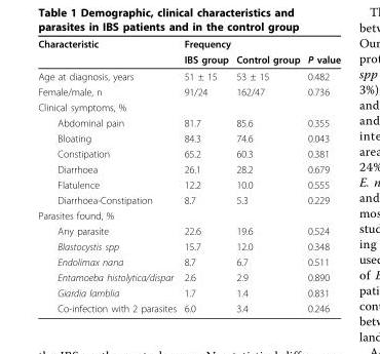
<table><thead><tr><td rowspan="2">Characteristic</td><td colspan="2">Frequency</td><td rowspan="2">P value</td></tr><tr><td>IBS group</td><td>Control group</td></tr></thead><tbody><tr><td>Age at diagnosis, years</td><td>51 ± 15</td><td>53 ± 15</td><td>0.482</td></tr><tr><td>Female/male, n</td><td>91/24</td><td>162/47</td><td>0.736</td></tr><tr><td colspan="4">Clinical symptoms, %</td></tr><tr><td>Abdominal pain</td><td>81.7</td><td>85.6</td><td>0.355</td></tr><tr><td>Bloating</td><td>84.3</td><td>74.6</td><td>0.043</td></tr><tr><td>Constipation</td><td>65.2</td><td>60.3</td><td>0.381</td></tr><tr><td>Diarrhoea</td><td>26.1</td><td>28.2</td><td>0.679</td></tr><tr><td>Flatulence</td><td>12.2</td><td>10.0</td><td>0.555</td></tr><tr><td>Diarrhoea-Constipation</td><td>8.7</td><td>5.3</td><td>0.229</td></tr><tr><td colspan="4">Parasites found, %</td></tr><tr><td>Any parasite</td><td>22.6</td><td>19.6</td><td>0.524</td></tr><tr><td>Blastocystis spp</td><td>15.7</td><td>12.0</td><td>0.348</td></tr><tr><td>Endolimax nana</td><td>8.7</td><td>6.7</td><td>0.511</td></tr><tr><td>Entamoeba histolytica/dispar</td><td>2.6</td><td>2.9</td><td>0.890</td></tr><tr><td>Giardia lamblia</td><td>1.7</td><td>1.4</td><td>0.831</td></tr><tr><td>Co-infection with 2 parasites</td><td>6.0</td><td>3.4</td><td>0.246</td></tr></tbody></table>